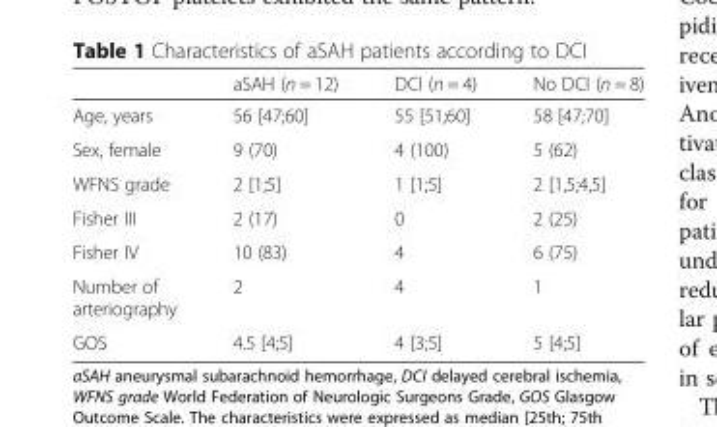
<table><thead><tr><td></td><td>aSAH (n = 12)</td><td>DCI (n = 4)</td><td>No DCI (n = 8)</td></tr></thead><tbody><tr><td>Age, years</td><td>56 [47;60]</td><td>55 [51;60]</td><td>58 [47;70]</td></tr><tr><td>Sex, female</td><td>9 (70)</td><td>4 (100)</td><td>5 (62)</td></tr><tr><td>WFNS grade</td><td>2 [1;5]</td><td>1 [1;5]</td><td>2 [1,5;4,5]</td></tr><tr><td>Fisher III</td><td>2 (17)</td><td>0</td><td>2 (25)</td></tr><tr><td>Fisher IV</td><td>10 (83)</td><td>4</td><td>6 (75)</td></tr><tr><td>Number of arteriography</td><td>2</td><td>4</td><td>1</td></tr><tr><td>GOS</td><td>4.5 [4;5]</td><td>4 [3;5]</td><td>5 [4;5]</td></tr></tbody></table>